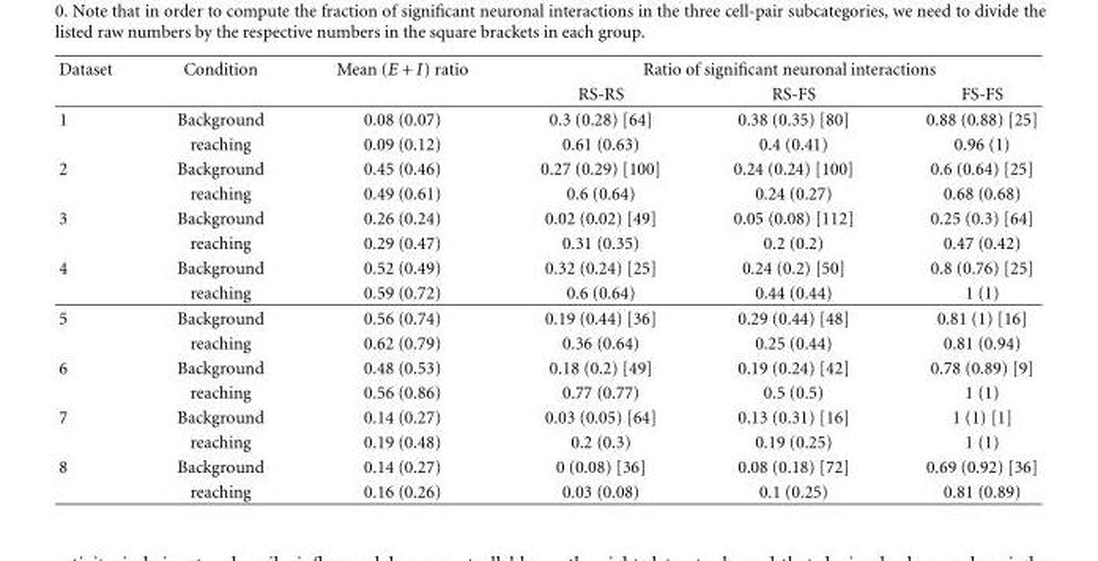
<table><thead><tr><td rowspan="2">Dataset</td><td rowspan="2">Condition</td><td rowspan="2">Mean (E + I) ratio</td><td colspan="3">Ratio of significant neuronal interactions</td></tr><tr><td>RS-RS</td><td>RS-FS</td><td>FS-FS</td></tr></thead><tbody><tr><td rowspan="2">1</td><td>Background</td><td>0.08 (0.07)</td><td>0.3 (0.28) [64]</td><td>0.38 (0.35) [80]</td><td>0.88 (0.88) [25]</td></tr><tr><td>reaching</td><td>0.09 (0.12)</td><td>0.61 (0.63)</td><td>0.4 (0.41)</td><td>0.96 (1)</td></tr><tr><td rowspan="2">2</td><td>Background</td><td>0.45 (0.46)</td><td>0.27 (0.29) [100]</td><td>0.24 (0.24) [100]</td><td>0.6 (0.64) [25]</td></tr><tr><td>reaching</td><td>0.49 (0.61)</td><td>0.6 (0.64)</td><td>0.24 (0.27)</td><td>0.68 (0.68)</td></tr><tr><td rowspan="2">3</td><td>Background</td><td>0.26 (0.24)</td><td>0.02 (0.02) [49]</td><td>0.05 (0.08) [112]</td><td>0.25 (0.3) [64]</td></tr><tr><td>reaching</td><td>0.29 (0.47)</td><td>0.31 (0.35)</td><td>0.2 (0.2)</td><td>0.47 (0.42)</td></tr><tr><td rowspan="2">4</td><td>Background</td><td>0.52 (0.49)</td><td>0.32 (0.24) [25]</td><td>0.24 (0.2) [50]</td><td>0.8 (0.76) [25]</td></tr><tr><td>reaching</td><td>0.59 (0.72)</td><td>0.6 (0.64)</td><td>0.44 (0.44)</td><td>1 (1)</td></tr><tr><td rowspan="2">5</td><td>Background</td><td>0.56 (0.74)</td><td>0.19 (0.44) [36]</td><td>0.29 (0.44) [48]</td><td>0.81 (1) [16]</td></tr><tr><td>reaching</td><td>0.62 (0.79)</td><td>0.36 (0.64)</td><td>0.25 (0.44)</td><td>0.81 (0.94)</td></tr><tr><td rowspan="2">6</td><td>Background</td><td>0.48 (0.53)</td><td>0.18 (0.2) [49]</td><td>0.19 (0.24) [42]</td><td>0.78 (0.89) [9]</td></tr><tr><td>reaching</td><td>0.56 (0.86)</td><td>0.77 (0.77)</td><td>0.5 (0.5)</td><td>1 (1)</td></tr><tr><td rowspan="2">7</td><td>Background</td><td>0.14 (0.27)</td><td>0.03 (0.05) [64]</td><td>0.13 (0.31) [16]</td><td>1 (1) [1]</td></tr><tr><td>reaching</td><td>0.19 (0.48)</td><td>0.2 (0.3)</td><td>0.19 (0.25)</td><td>1 (1)</td></tr><tr><td rowspan="2">8</td><td>Background</td><td>0.14 (0.27)</td><td>0 (0.08) [36]</td><td>0.08 (0.18) [72]</td><td>0.69 (0.92) [36]</td></tr><tr><td>reaching</td><td>0.16 (0.26)</td><td>0.03 (0.08)</td><td>0.1 (0.25)</td><td>0.81 (0.89)</td></tr></tbody></table>